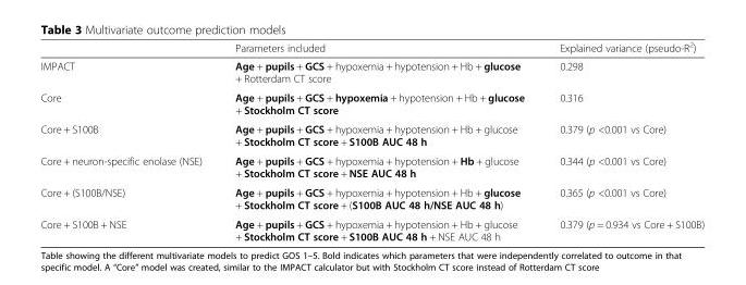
<table><thead><tr><td></td><td>Parameters included</td><td>Explained variance (pseudo-R<sup>2</sup>)</td></tr></thead><tbody><tr><td>IMPACT</td><td>Age + pupils + GCS + hypoxemia + hypotension + Hb + glucose + Rotterdam CT score</td><td>0.298</td></tr><tr><td>Core</td><td>Age + pupils + GCS + hypoxemia + hypotension + Hb + glucose + Stockholm CT score</td><td>0.316</td></tr><tr><td>Core + S100B</td><td>Age + pupils + GCS + hypoxemia + hypotension + Hb + glucose + Stockholm CT score + S100B AUC 48 h</td><td>0.379 (p &lt;0.001 vs Core)</td></tr><tr><td>Core + neuron-specific enolase (NSE)</td><td>Age + pupils + GCS + hypoxemia + hypotension + Hb + glucose + Stockholm CT score + NSE AUC 48 h</td><td>0.344 (p &lt;0.001 vs Core)</td></tr><tr><td>Core + (S100B/NSE)</td><td>Age + pupils + GCS + hypoxemia + hypotension + Hb + glucose + Stockholm CT score + (S100B AUC 48 h/NSE AUC 48 h)</td><td>0.365 (p &lt;0.001 vs Core)</td></tr><tr><td>Core + S100B + NSE</td><td>Age + pupils + GCS + hypoxemia + hypotension + Hb + glucose + Stockholm CT score + S100B AUC 48 h + NSE AUC 48 h</td><td>0.379 (p = 0.934 vs Core + S100B)</td></tr></tbody></table>